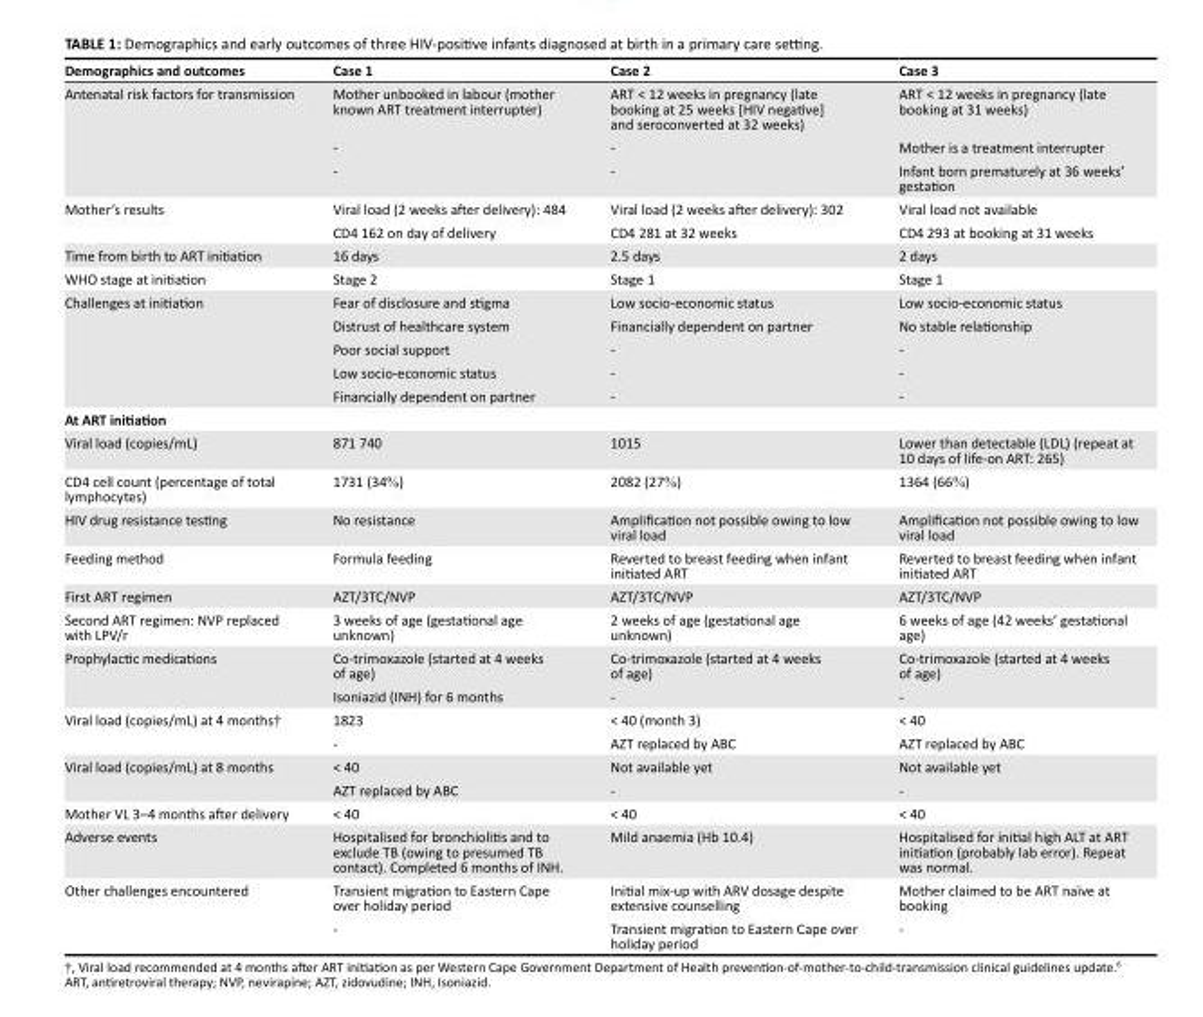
<table><thead><tr><td>Demographics and outcomes</td><td>Case 1</td><td>Case 2</td><td>Case 3</td></tr></thead><tbody><tr><td rowspan="3">Antenatal risk factors for transmission</td><td>Mother unbooked in labour (mother known ART treatment interrupter)</td><td>ART &lt; 12 weeks in pregnancy (late booking at 25 weeks [HIV negative] and seroconverted at 32 weeks)</td><td>ART &lt; 12 weeks in pregnancy (late booking at 31 weeks)</td></tr><tr><td>-</td><td>-</td><td>Mother is a treatment interrupter</td></tr><tr><td>-</td><td>-</td><td>Infant born prematurely at 36 weeks’ gestation</td></tr><tr><td rowspan="2">Mother’s results</td><td>Viral load (2 weeks after delivery): 484</td><td>Viral load (2 weeks after delivery): 302</td><td>Viral load not available</td></tr><tr><td>CD4 162 on day of delivery</td><td>CD4 281 at 32 weeks</td><td>CD4 293 at booking at 31 weeks</td></tr><tr><td>Time from birth to ART initiation</td><td>16 days</td><td>2.5 days</td><td>2 days</td></tr><tr><td>WHO stage at initiation</td><td>Stage 2</td><td>Stage 1</td><td>Stage 1</td></tr><tr><td rowspan="5">Challenges at initiation</td><td>Fear of disclosure and stigma</td><td>Low socio-economic status</td><td>Low socio-economic status</td></tr><tr><td>Distrust of healthcare system</td><td>Financially dependent on partner</td><td>No stable relationship</td></tr><tr><td>Poor social support</td><td>-</td><td>-</td></tr><tr><td>Low socio-economic status</td><td>-</td><td>-</td></tr><tr><td>Financially dependent on partner</td><td>-</td><td>-</td></tr><tr><td colspan="4">At ART initiation</td></tr><tr><td>Viral load (copies/mL)</td><td>871 740</td><td>1015</td><td>Lower than detectable (LDL) (repeat at 10 days of life-on ART: 265)</td></tr><tr><td>CD4 cell count (percentage of total lymphocytes)</td><td>1731 (34%)</td><td>2082 (27%)</td><td>1364 (66%)</td></tr><tr><td>HIV drug resistance testing</td><td>No resistance</td><td>Amplification not possible owing to low viral load</td><td>Amplification not possible owing to low viral load</td></tr><tr><td>Feeding method</td><td>Formula feeding</td><td>Reverted to breast feeding when infant initiated ART</td><td>Reverted to breast feeding when infant initiated ART</td></tr><tr><td>First ART regimen</td><td>AZT/3TC/NVP</td><td>AZT/3TC/NVP</td><td>AZT/3TC/NVP</td></tr><tr><td>Second ART regimen: NVP replaced with LPV/r</td><td>3 weeks of age (gestational age unknown)</td><td>2 weeks of age (gestational age unknown)</td><td>6 weeks of age (42 weeks’ gestational age)</td></tr><tr><td rowspan="2">Prophylactic medications</td><td>Co-trimoxazole (started at 4 weeks of age)</td><td>Co-trimoxazole (started at 4 weeks of age)</td><td>Co-trimoxazole (started at 4 weeks of age)</td></tr><tr><td>Isoniazid (INH) for 6 months</td><td>-</td><td>-</td></tr><tr><td rowspan="2">Viral load (copies/mL) at 4 months†</td><td>1823</td><td>&lt; 40 (month 3)</td><td>&lt; 40</td></tr><tr><td>-</td><td>AZT replaced by ABC</td><td>AZT replaced by ABC</td></tr><tr><td rowspan="2">Viral load (copies/mL) at 8 months</td><td>&lt; 40</td><td>Not available yet</td><td>Not available yet</td></tr><tr><td>AZT replaced by ABC</td><td>-</td><td>-</td></tr><tr><td>Mother VL 3–4 months after delivery</td><td>&lt; 40</td><td>&lt; 40</td><td>&lt; 40</td></tr><tr><td>Adverse events</td><td>Hospitalised for bronchiolitis and to exclude TB (owing to presumed TB contact). Completed 6 months of INH.</td><td>Mild anaemia (Hb 10.4)</td><td>Hospitalised for initial high ALT at ART initiation (probably lab error). Repeat was normal.</td></tr><tr><td rowspan="2">Other challenges encountered</td><td>Transient migration to Eastern Cape over holiday period</td><td>Initial mix-up with ARV dosage despite extensive counselling</td><td>Mother claimed to be ART naïve at booking</td></tr><tr><td>-</td><td>Transient migration to Eastern Cape over holiday period</td><td>-</td></tr></tbody></table>